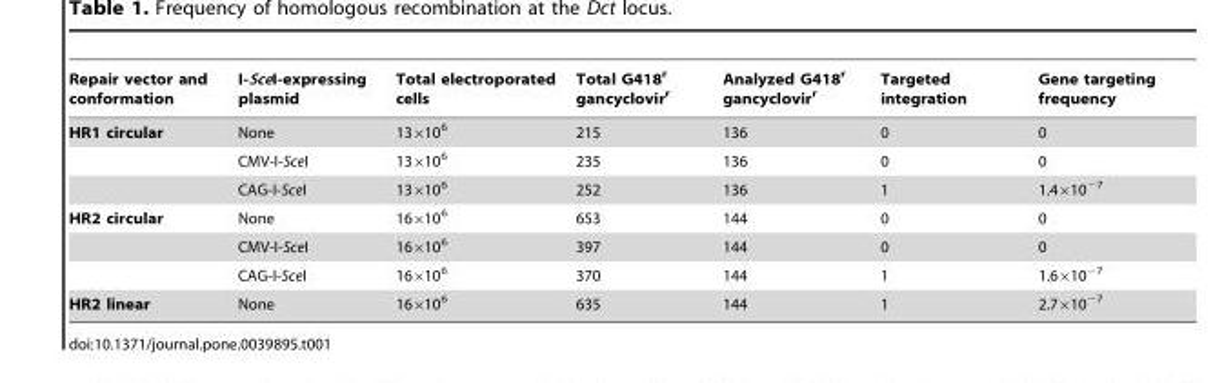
<table><thead><tr><td>Repair vector and conformation</td><td>I-SceI-expressing plasmid</td><td>Total electroporated cells</td><td>Total G418<sup>r</sup> gancyclovir<sup>r</sup></td><td>Analyzed G418<sup>r</sup> gancyclovir<sup>r</sup></td><td>Targeted integration</td><td>Gene targeting frequency</td></tr></thead><tbody><tr><td rowspan="3">HR1 circular</td><td>None</td><td>13×10<sup>6</sup></td><td>215</td><td>136</td><td>0</td><td>0</td></tr><tr><td>CMV-I-SceI</td><td>13×10<sup>6</sup></td><td>235</td><td>136</td><td>0</td><td>0</td></tr><tr><td>CAG-I-SceI</td><td>13×10<sup>6</sup></td><td>252</td><td>136</td><td>1</td><td>1.4×10<sup>−7</sup></td></tr><tr><td rowspan="3">HR2 circular</td><td>None</td><td>16×10<sup>6</sup></td><td>653</td><td>144</td><td>0</td><td>0</td></tr><tr><td>CMV-I-SceI</td><td>16×10<sup>6</sup></td><td>397</td><td>144</td><td>0</td><td>0</td></tr><tr><td>CAG-I-SceI</td><td>16×10<sup>6</sup></td><td>370</td><td>144</td><td>1</td><td>1.6×10<sup>−7</sup></td></tr><tr><td>HR2 linear</td><td>None</td><td>16×10<sup>6</sup></td><td>635</td><td>144</td><td>1</td><td>2.7×10<sup>−7</sup></td></tr></tbody></table>